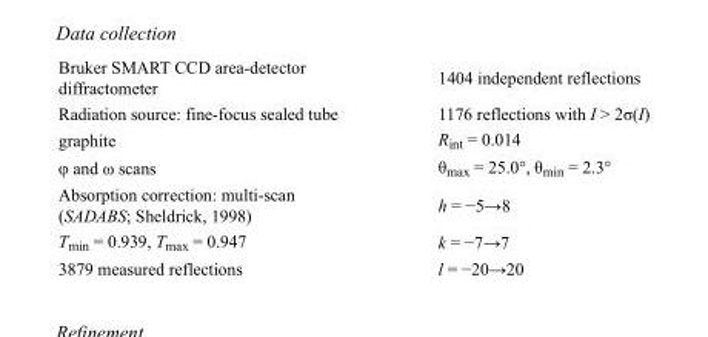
<table><tbody><tr><td>Bruker SMART CCD area-detector diffractometer</td><td>1404 independent reflections</td></tr><tr><td>Radiation source: fine-focus sealed tube</td><td>1176 reflections with I &gt; 2σ(I)</td></tr><tr><td>graphite</td><td>R<sub>int</sub> = 0.014</td></tr><tr><td>φ and ω scans</td><td>θ<sub>max</sub> = 25.0°, θ<sub>min</sub> = 2.3°</td></tr><tr><td>Absorption correction: multi-scan (SADABS; Sheldrick, 1998)</td><td>h = −5→8</td></tr><tr><td>T<sub>min</sub> = 0.939, T<sub>max</sub> = 0.947</td><td>k = −7→7</td></tr><tr><td>3879 measured reflections</td><td>l = −20→20</td></tr></tbody></table>